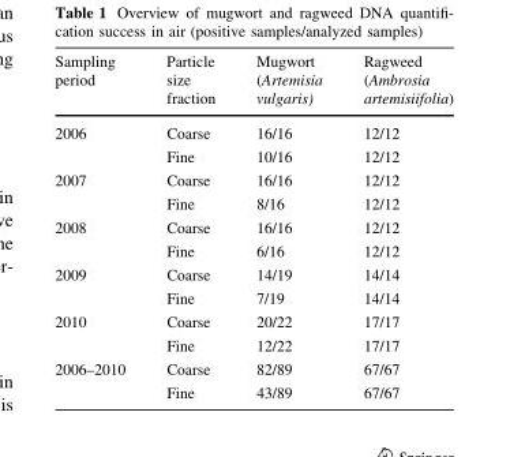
<table><thead><tr><td>Sampling period</td><td>Particle size fraction</td><td>Mugwort (Artemisia vulgaris)</td><td>Ragweed (Ambrosia artemisiifolia)</td></tr></thead><tbody><tr><td rowspan="2">2006</td><td>Coarse</td><td>16/16</td><td>12/12</td></tr><tr><td>Fine</td><td>10/16</td><td>12/12</td></tr><tr><td rowspan="2">2007</td><td>Coarse</td><td>16/16</td><td>12/12</td></tr><tr><td>Fine</td><td>8/16</td><td>12/12</td></tr><tr><td rowspan="2">2008</td><td>Coarse</td><td>16/16</td><td>12/12</td></tr><tr><td>Fine</td><td>6/16</td><td>12/12</td></tr><tr><td rowspan="2">2009</td><td>Coarse</td><td>14/19</td><td>14/14</td></tr><tr><td>Fine</td><td>7/19</td><td>14/14</td></tr><tr><td rowspan="2">2010</td><td>Coarse</td><td>20/22</td><td>17/17</td></tr><tr><td>Fine</td><td>12/22</td><td>17/17</td></tr><tr><td rowspan="2">2006–2010</td><td>Coarse</td><td>82/89</td><td>67/67</td></tr><tr><td>Fine</td><td>43/89</td><td>67/67</td></tr></tbody></table>